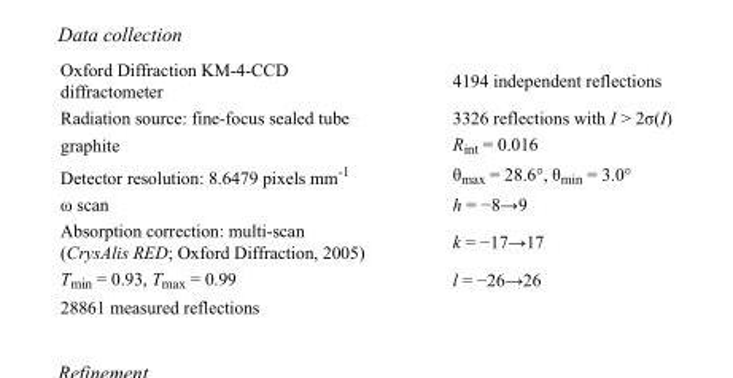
<table><tbody><tr><td>Oxford Diffraction KM-4-CCD diffractometer</td><td>4194 independent reflections</td></tr><tr><td>Radiation source: fine-focus sealed tube</td><td>3326 reflections with I &gt; 2σ(I)</td></tr><tr><td>graphite</td><td>R<sub>int</sub> = 0.016</td></tr><tr><td>Detector resolution: 8.6479 pixels mm<sup>-1</sup></td><td>θ<sub>max</sub> = 28.6°, θ<sub>min</sub> = 3.0°</td></tr><tr><td>ω scan</td><td>h = −8→9</td></tr><tr><td>Absorption correction: multi-scan (CrysAlis RED; Oxford Diffraction, 2005)</td><td>k = −17→17</td></tr><tr><td>T<sub>min</sub> = 0.93, T<sub>max</sub> = 0.99</td><td>l = −26→26</td></tr><tr><td>28861 measured reflections</td><td></td></tr></tbody></table>